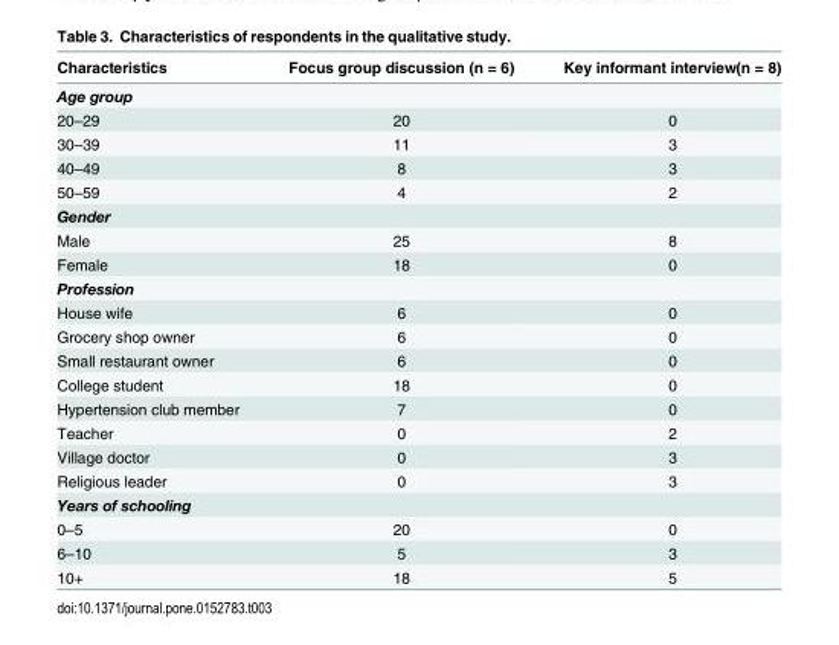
<table><thead><tr><td>Characteristics</td><td>Focus group discussion (n = 6)</td><td>Key informant interview(n = 8)</td></tr></thead><tbody><tr><td colspan="3">Age group</td></tr><tr><td>20–29</td><td>20</td><td>0</td></tr><tr><td>30–39</td><td>11</td><td>3</td></tr><tr><td>40–49</td><td>8</td><td>3</td></tr><tr><td>50–59</td><td>4</td><td>2</td></tr><tr><td colspan="3">Gender</td></tr><tr><td>Male</td><td>25</td><td>8</td></tr><tr><td>Female</td><td>18</td><td>0</td></tr><tr><td colspan="3">Profession</td></tr><tr><td>House wife</td><td>6</td><td>0</td></tr><tr><td>Grocery shop owner</td><td>6</td><td>0</td></tr><tr><td>Small restaurant owner</td><td>6</td><td>0</td></tr><tr><td>College student</td><td>18</td><td>0</td></tr><tr><td>Hypertension club member</td><td>7</td><td>0</td></tr><tr><td>Teacher</td><td>0</td><td>2</td></tr><tr><td>Village doctor</td><td>0</td><td>3</td></tr><tr><td>Religious leader</td><td>0</td><td>3</td></tr><tr><td colspan="3">Years of schooling</td></tr><tr><td>0–5</td><td>20</td><td>0</td></tr><tr><td>6–10</td><td>5</td><td>3</td></tr><tr><td>10+</td><td>18</td><td>5</td></tr></tbody></table>